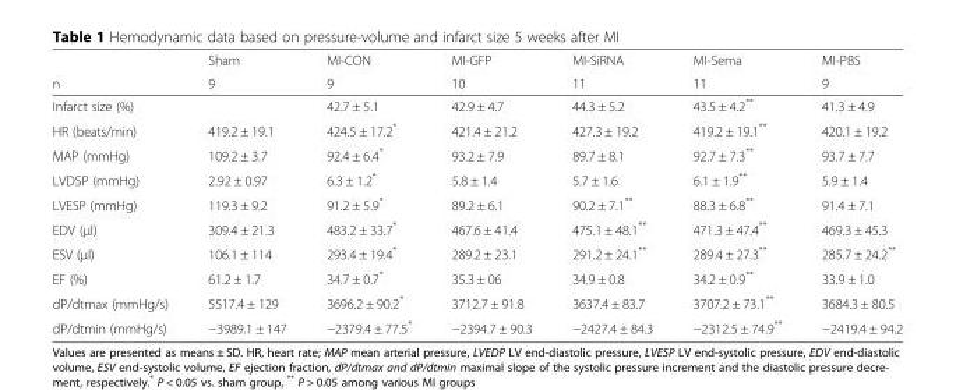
<table><thead><tr><td rowspan="2">n</td><td rowspan="2">Sham 9</td><td rowspan="2">MI-CON 9</td><td rowspan="2">MI-GFP 10</td><td rowspan="2">MI-SiRNA 11</td><td rowspan="2">MI-Sema 11</td><td rowspan="2">MI-PBS 9</td></tr><tr></tr></thead><tbody><tr><td>Infarct size (%)</td><td></td><td>42.7 ± 5.1</td><td>42.9 ± 4.7</td><td>44.3 ± 5.2</td><td>43.5 ± 4.2**</td><td>41.3 ± 4.9</td></tr><tr><td>HR (beats/min)</td><td>419.2 ± 19.1</td><td>424.5 ± 17.2*</td><td>421.4 ± 21.2</td><td>427.3 ± 19.2</td><td>419.2 ± 19.1**</td><td>420.1 ± 19.2</td></tr><tr><td>MAP (mmHg)</td><td>109.2 ± 3.7</td><td>92.4 ± 6.4*</td><td>93.2 ± 7.9</td><td>89.7 ± 8.1</td><td>92.7 ± 7.3**</td><td>93.7 ± 7.7</td></tr><tr><td>LVDSP (mmHg)</td><td>2.92 ± 0.97</td><td>6.3 ± 1.2*</td><td>5.8 ± 1.4</td><td>5.7 ± 1.6</td><td>6.1 ± 1.9**</td><td>5.9 ± 1.4</td></tr><tr><td>LVESP (mmHg)</td><td>119.3 ± 9.2</td><td>91.2 ± 5.9*</td><td>89.2 ± 6.1</td><td>90.2 ± 7.1**</td><td>88.3 ± 6.8**</td><td>91.4 ± 7.1</td></tr><tr><td>EDV (μl)</td><td>309.4 ± 21.3</td><td>483.2 ± 33.7*</td><td>467.6 ± 41.4</td><td>475.1 ± 48.1**</td><td>471.3 ± 47.4**</td><td>469.3 ± 45.3</td></tr><tr><td>ESV (μl)</td><td>106.1 ± 114</td><td>293.4 ± 19.4*</td><td>289.2 ± 23.1</td><td>291.2 ± 24.1**</td><td>289.4 ± 27.3**</td><td>285.7 ± 24.2**</td></tr><tr><td>EF (%)</td><td>61.2 ± 1.7</td><td>34.7 ± 0.7*</td><td>35.3 ± 06</td><td>34.9 ± 0.8</td><td>34.2 ± 0.9**</td><td>33.9 ± 1.0</td></tr><tr><td>dP/dtmax (mmHg/s)</td><td>5517.4 ± 129</td><td>3696.2 ± 90.2*</td><td>3712.7 ± 91.8</td><td>3637.4 ± 83.7</td><td>3707.2 ± 73.1**</td><td>3684.3 ± 80.5</td></tr><tr><td>dP/dtmin (mmHg/s)</td><td>−3989.1 ± 147</td><td>−2379.4 ± 77.5*</td><td>−2394.7 ± 90.3</td><td>−2427.4 ± 84.3</td><td>−2312.5 ± 74.9**</td><td>−2419.4 ± 94.2</td></tr></tbody></table>